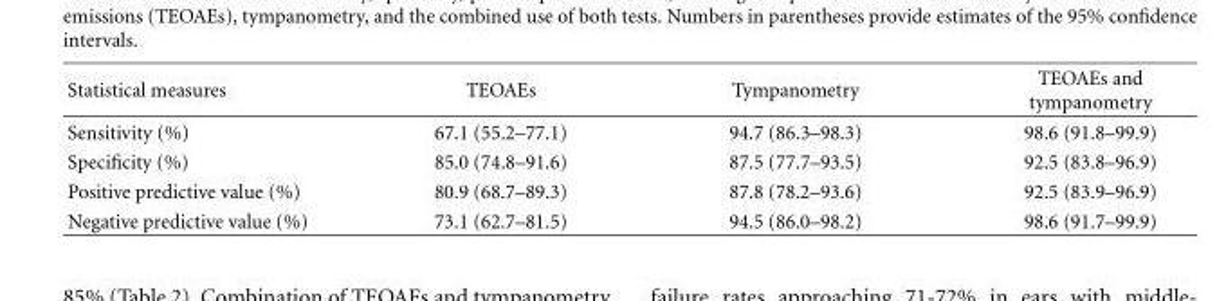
<table><thead><tr><td>Statistical measures</td><td>TEOAEs</td><td>Tympanometry</td><td>TEOAEs and tympanometry</td></tr></thead><tbody><tr><td>Sensitivity (%)</td><td>67.1 (55.2–77.1)</td><td>94.7 (86.3–98.3)</td><td>98.6 (91.8–99.9)</td></tr><tr><td>Specificity (%)</td><td>85.0 (74.8–91.6)</td><td>87.5 (77.7–93.5)</td><td>92.5 (83.8–96.9)</td></tr><tr><td>Positive predictive value (%)</td><td>80.9 (68.7–89.3)</td><td>87.8 (78.2–93.6)</td><td>92.5 (83.9–96.9)</td></tr><tr><td>Negative predictive value (%)</td><td>73.1 (62.7–81.5)</td><td>94.5 (86.0–98.2)</td><td>98.6 (91.7–99.9)</td></tr></tbody></table>